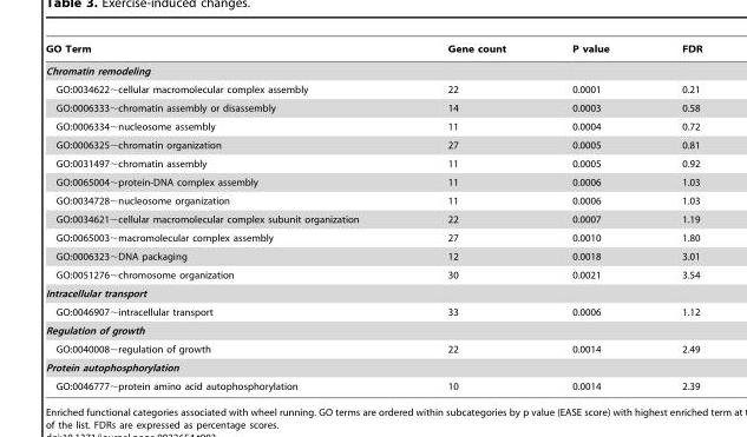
<table><thead><tr><td>GO Term</td><td>Gene count</td><td>P value</td><td>FDR</td></tr></thead><tbody><tr><td colspan="4">Chromatin remodeling</td></tr><tr><td>GO:0034622∼cellular macromolecular complex assembly</td><td>22</td><td>0.0001</td><td>0.21</td></tr><tr><td>GO:0006333∼chromatin assembly or disassembly</td><td>14</td><td>0.0003</td><td>0.58</td></tr><tr><td>GO:0006334∼nucleosome assembly</td><td>11</td><td>0.0004</td><td>0.72</td></tr><tr><td>GO:0006325∼chromatin organization</td><td>27</td><td>0.0005</td><td>0.81</td></tr><tr><td>GO:0031497∼chromatin assembly</td><td>11</td><td>0.0005</td><td>0.92</td></tr><tr><td>GO:0065004∼protein-DNA complex assembly</td><td>11</td><td>0.0006</td><td>1.03</td></tr><tr><td>GO:0034728∼nucleosome organization</td><td>11</td><td>0.0006</td><td>1.03</td></tr><tr><td>GO:0034621∼cellular macromolecular complex subunit organization</td><td>22</td><td>0.0007</td><td>1.19</td></tr><tr><td>GO:0065003∼macromolecular complex assembly</td><td>27</td><td>0.0010</td><td>1.80</td></tr><tr><td>GO:0006323∼DNA packaging</td><td>12</td><td>0.0018</td><td>3.01</td></tr><tr><td>GO:0051276∼chromosome organization</td><td>30</td><td>0.0021</td><td>3.54</td></tr><tr><td colspan="4">Intracellular transport</td></tr><tr><td>GO:0046907∼intracellular transport</td><td>33</td><td>0.0006</td><td>1.12</td></tr><tr><td colspan="4">Regulation of growth</td></tr><tr><td>GO:0040008∼regulation of growth</td><td>22</td><td>0.0014</td><td>2.49</td></tr><tr><td colspan="4">Protein autophosphorylation</td></tr><tr><td>GO:0046777∼protein amino acid autophosphorylation</td><td>10</td><td>0.0014</td><td>2.39</td></tr></tbody></table>